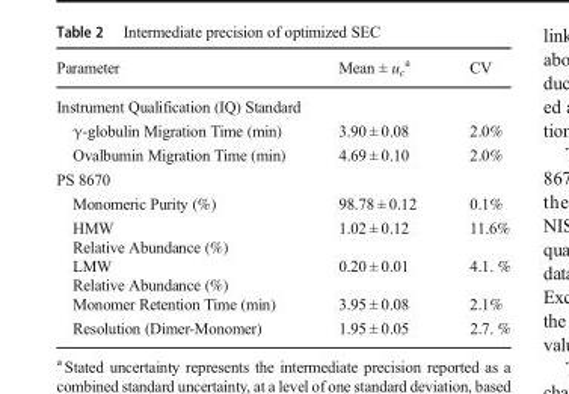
<table><thead><tr><td>Parameter</td><td>Mean ± u<sub>c</sub> <sup>a</sup></td><td>CV</td></tr></thead><tbody><tr><td colspan="3">Instrument Qualification (IQ) Standard</td></tr><tr><td>γ-globulin Migration Time (min)</td><td>3.90 ± 0.08</td><td>2.0%</td></tr><tr><td>Ovalbumin Migration Time (min)</td><td>4.69 ± 0.10</td><td>2.0%</td></tr><tr><td colspan="3">PS 8670</td></tr><tr><td>Monomeric Purity (%)</td><td>98.78 ± 0.12</td><td>0.1%</td></tr><tr><td>HMW Relative Abundance (%)</td><td>1.02 ± 0.12</td><td>11.6%</td></tr><tr><td>LMW Relative Abundance (%)</td><td>0.20 ± 0.01</td><td>4.1. %</td></tr><tr><td>Monomer Retention Time (min)</td><td>3.95 ± 0.08</td><td>2.1%</td></tr><tr><td>Resolution (Dimer-Monomer)</td><td>1.95 ± 0.05</td><td>2.7. %</td></tr></tbody></table>